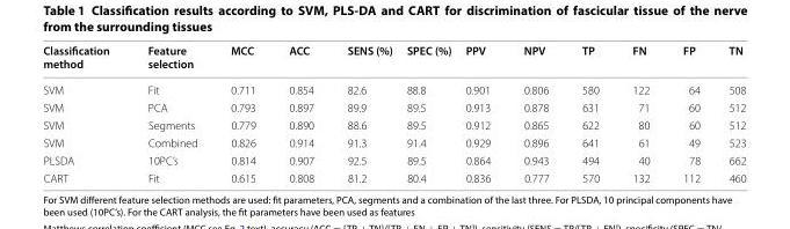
<table><thead><tr><td>Classification method</td><td>Feature selection</td><td>MCC</td><td>ACC</td><td>SENS (%)</td><td>SPEC (%)</td><td>PPV</td><td>NPV</td><td>TP</td><td>FN</td><td>FP</td><td>TN</td></tr></thead><tbody><tr><td>SVM</td><td>Fit</td><td>0.711</td><td>0.854</td><td>82.6</td><td>88.8</td><td>0.901</td><td>0.806</td><td>580</td><td>122</td><td>64</td><td>508</td></tr><tr><td>SVM</td><td>PCA</td><td>0.793</td><td>0.897</td><td>89.9</td><td>89.5</td><td>0.913</td><td>0.878</td><td>631</td><td>71</td><td>60</td><td>512</td></tr><tr><td>SVM</td><td>Segments</td><td>0.779</td><td>0.890</td><td>88.6</td><td>89.5</td><td>0.912</td><td>0.865</td><td>622</td><td>80</td><td>60</td><td>512</td></tr><tr><td>SVM</td><td>Combined</td><td>0.826</td><td>0.914</td><td>91.3</td><td>91.4</td><td>0.929</td><td>0.896</td><td>641</td><td>61</td><td>49</td><td>523</td></tr><tr><td>PLSDA</td><td>10PC’s</td><td>0.814</td><td>0.907</td><td>92.5</td><td>89.5</td><td>0.864</td><td>0.943</td><td>494</td><td>40</td><td>78</td><td>662</td></tr><tr><td>CART</td><td>Fit</td><td>0.615</td><td>0.808</td><td>81.2</td><td>80.4</td><td>0.836</td><td>0.777</td><td>570</td><td>132</td><td>112</td><td>460</td></tr></tbody></table>